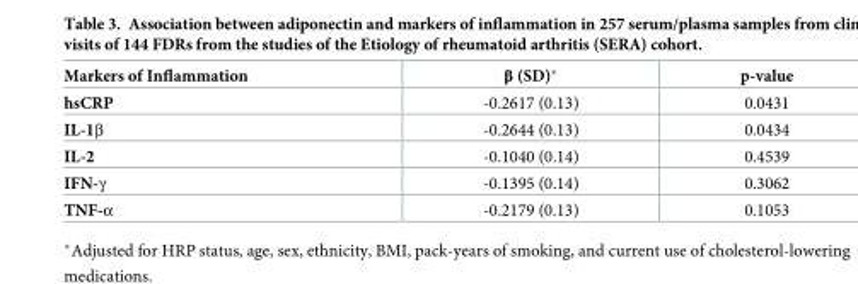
<table><thead><tr><td>Markers of Inflammation</td><td>β (SD)*</td><td>p-value</td></tr></thead><tbody><tr><td>hsCRP</td><td>-0.2617 (0.13)</td><td>0.0431</td></tr><tr><td>IL-1β</td><td>-0.2644 (0.13)</td><td>0.0434</td></tr><tr><td>IL-2</td><td>-0.1040 (0.14)</td><td>0.4539</td></tr><tr><td>IFN-γ</td><td>-0.1395 (0.14)</td><td>0.3062</td></tr><tr><td>TNF-α</td><td>-0.2179 (0.13)</td><td>0.1053</td></tr></tbody></table>